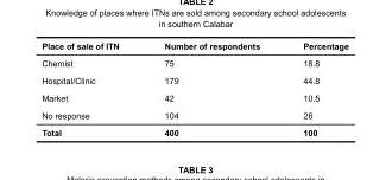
<table><thead><tr><td>Place of sale of ITN</td><td>Number of respondents</td><td>Percentage</td></tr></thead><tbody><tr><td>Chemist</td><td>75</td><td>18.8</td></tr><tr><td>Hospital/Clinic</td><td>179</td><td>44.8</td></tr><tr><td>Market</td><td>42</td><td>10.5</td></tr><tr><td>No response</td><td>104</td><td>26</td></tr><tr><td>Total</td><td>400</td><td>100</td></tr></tbody></table>